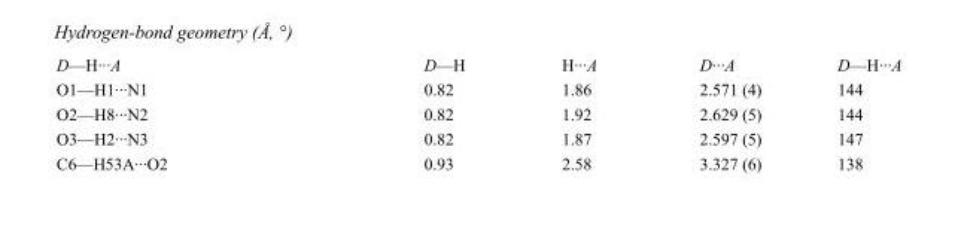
<table><tbody><tr><td>D—H···A</td><td>D—H</td><td>H···A</td><td>D···A</td><td>D—H···A</td></tr><tr><td>O1—H1···N1</td><td>0.82</td><td>1.86</td><td>2.571 (4)</td><td>144</td></tr><tr><td>O2—H8···N2</td><td>0.82</td><td>1.92</td><td>2.629 (5)</td><td>144</td></tr><tr><td>O3—H2···N3</td><td>0.82</td><td>1.87</td><td>2.597 (5)</td><td>147</td></tr><tr><td>C6—H53A···O2</td><td>0.93</td><td>2.58</td><td>3.327 (6)</td><td>138</td></tr></tbody></table>